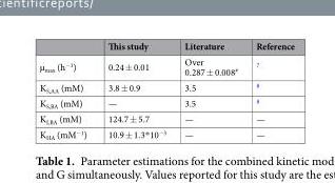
<table><thead><tr><td></td><td>This study</td><td>Literature</td><td>Reference</td></tr></thead><tbody><tr><td>µ<sub>max</sub> (h<sup>−1</sup>)</td><td>0.24 ± 0.01</td><td>Over 0.287 ± 0.008<sup>#</sup></td><td><sup>7</sup></td></tr><tr><td>K<sub>S,AA</sub> (mM)</td><td>3.8 ± 0.9</td><td>3.5</td><td><sup>8</sup></td></tr><tr><td>K<sub>S,BA</sub> (mM)</td><td>—</td><td>3.5</td><td><sup>8</sup></td></tr><tr><td>K<sub>I,BA</sub> (mM)</td><td>124.7 ± 5.7</td><td>—</td><td>—</td></tr><tr><td>K<sub>HA</sub> (mM<sup>−1</sup>)</td><td>10.9 ± 1.3*10<sup>−3</sup></td><td>—</td><td>—</td></tr></tbody></table>